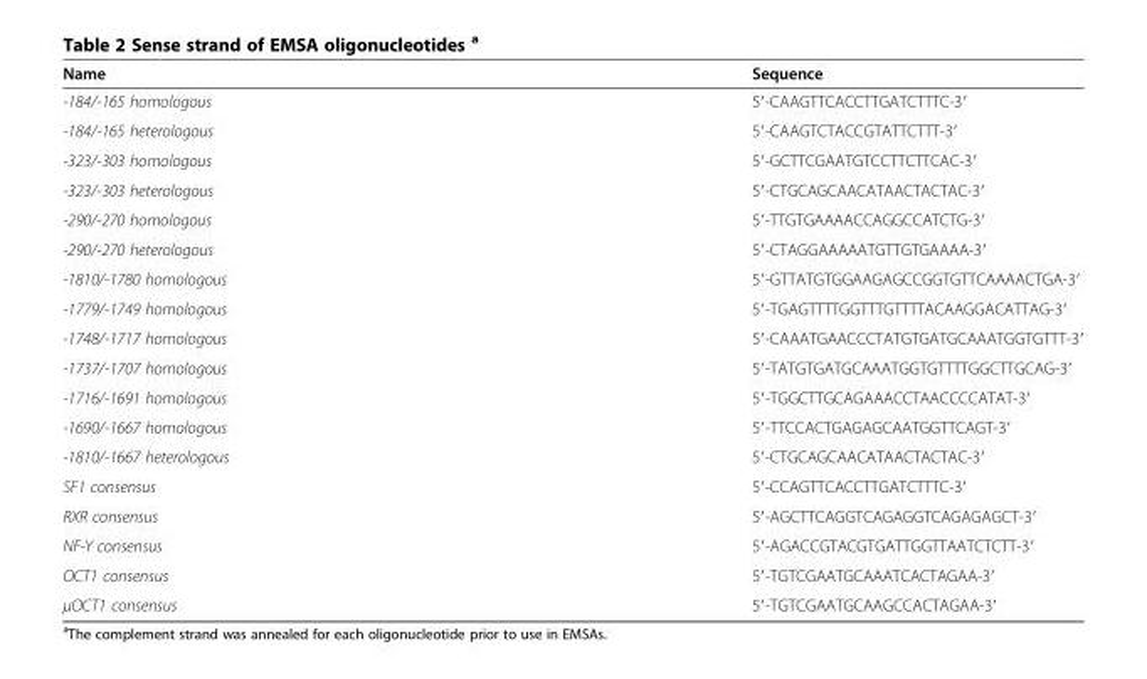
<table><thead><tr><td>Name</td><td>Sequence</td></tr></thead><tbody><tr><td>-184/-165 homologous</td><td>5′-CAAGTTCACCTTGATCTTTC-3′</td></tr><tr><td>-184/-165 heterologous</td><td>5′-CAAGTCTACCGTATTCTTT-3′</td></tr><tr><td>-323/-303 homologous</td><td>5′-GCTTCGAATGTCCTTCTTCAC-3′</td></tr><tr><td>-323/-303 heterologous</td><td>5′-CTGCAGCAACATAACTACTAC-3′</td></tr><tr><td>-290/-270 homologous</td><td>5′-TTGTGAAAACCAGGCCATCTG-3′</td></tr><tr><td>-290/-270 heterologous</td><td>5′-CTAGGAAAAATGTTGTGAAAA-3′</td></tr><tr><td>-1810/-1780 homologous</td><td>5′-GTTATGTGGAAGAGCCGGTGTTCAAAACTGA-3′</td></tr><tr><td>-1779/-1749 homologous</td><td>5′-TGAGTTTTGGTTTGTTTTACAAGGACATTAG-3′</td></tr><tr><td>-1748/-1717 homologous</td><td>5′-CAAATGAACCCTATGTGATGCAAATGGTGTTT-3′</td></tr><tr><td>-1737/-1707 homologous</td><td>5′-TATGTGATGCAAATGGTGTTTTGGCTTGCAG-3′</td></tr><tr><td>-1716/-1691 homologous</td><td>5′-TGGCTTGCAGAAACCTAACCCCATAT-3′</td></tr><tr><td>-1690/-1667 homologous</td><td>5′-TTCCACTGAGAGCAATGGTTCAGT-3′</td></tr><tr><td>-1810/-1667 heterologous</td><td>5′-CTGCAGCAACATAACTACTAC-3′</td></tr><tr><td>SF1 consensus</td><td>5′-CCAGTTCACCTTGATCTTTC-3′</td></tr><tr><td>RXR consensus</td><td>5′-AGCTTCAGGTCAGAGGTCAGAGAGCT-3′</td></tr><tr><td>NF-Y consensus</td><td>5′-AGACCGTACGTGATTGGTTAATCTCTT-3′</td></tr><tr><td>OCT1 consensus</td><td>5′-TGTCGAATGCAAATCACTAGAA-3′</td></tr><tr><td>μOCT1 consensus</td><td>5′-TGTCGAATGCAAGCCACTAGAA-3′</td></tr></tbody></table>